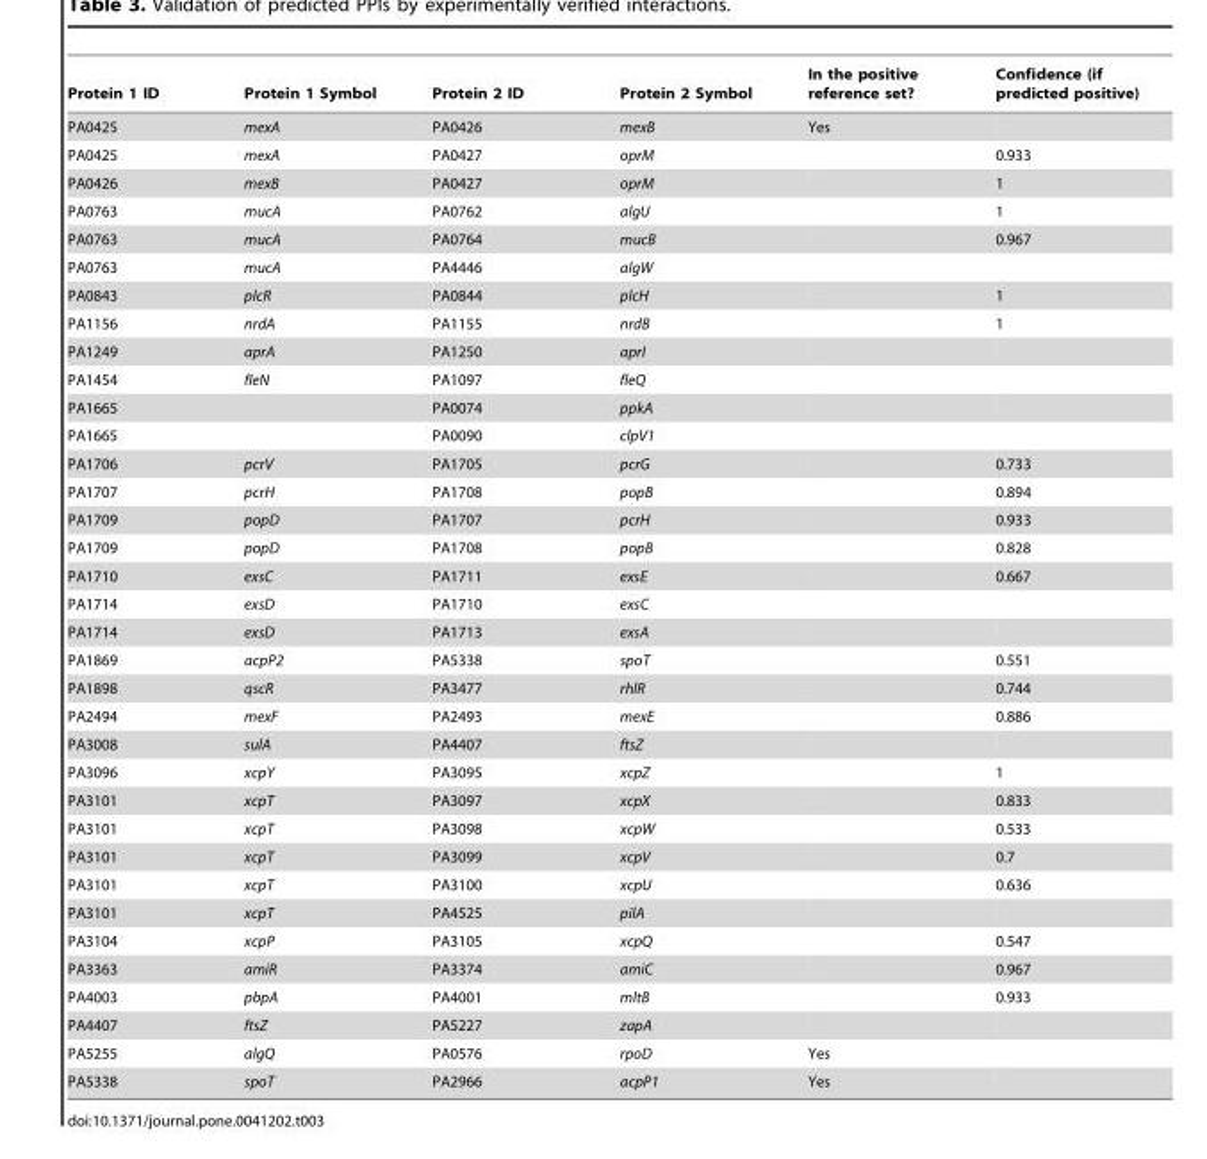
<table><thead><tr><td>Protein 1 ID</td><td>Protein 1 Symbol</td><td>Protein 2 ID</td><td>Protein 2 Symbol</td><td>In the positive reference set?</td><td>Confidence (if predicted positive)</td></tr></thead><tbody><tr><td>PA0425</td><td>mexA</td><td>PA0426</td><td>mexB</td><td>Yes</td><td></td></tr><tr><td>PA0425</td><td>mexA</td><td>PA0427</td><td>oprM</td><td></td><td>0.933</td></tr><tr><td>PA0426</td><td>mexB</td><td>PA0427</td><td>oprM</td><td></td><td>1</td></tr><tr><td>PA0763</td><td>mucA</td><td>PA0762</td><td>algU</td><td></td><td>1</td></tr><tr><td>PA0763</td><td>mucA</td><td>PA0764</td><td>mucB</td><td></td><td>0.967</td></tr><tr><td>PA0763</td><td>mucA</td><td>PA4446</td><td>algW</td><td></td><td></td></tr><tr><td>PA0843</td><td>plcR</td><td>PA0844</td><td>plcH</td><td></td><td>1</td></tr><tr><td>PA1156</td><td>nrdA</td><td>PA1155</td><td>nrdB</td><td></td><td>1</td></tr><tr><td>PA1249</td><td>aprA</td><td>PA1250</td><td>aprI</td><td></td><td></td></tr><tr><td>PA1454</td><td>fleN</td><td>PA1097</td><td>fleQ</td><td></td><td></td></tr><tr><td>PA1665</td><td></td><td>PA0074</td><td>ppkA</td><td></td><td></td></tr><tr><td>PA1665</td><td></td><td>PA0090</td><td>clpV1</td><td></td><td></td></tr><tr><td>PA1706</td><td>pcrV</td><td>PA1705</td><td>pcrG</td><td></td><td>0.733</td></tr><tr><td>PA1707</td><td>pcrH</td><td>PA1708</td><td>popB</td><td></td><td>0.894</td></tr><tr><td>PA1709</td><td>popD</td><td>PA1707</td><td>pcrH</td><td></td><td>0.933</td></tr><tr><td>PA1709</td><td>popD</td><td>PA1708</td><td>popB</td><td></td><td>0.828</td></tr><tr><td>PA1710</td><td>exsC</td><td>PA1711</td><td>exsE</td><td></td><td>0.667</td></tr><tr><td>PA1714</td><td>exsD</td><td>PA1710</td><td>exsC</td><td></td><td></td></tr><tr><td>PA1714</td><td>exsD</td><td>PA1713</td><td>exsA</td><td></td><td></td></tr><tr><td>PA1869</td><td>acpP2</td><td>PA5338</td><td>spoT</td><td></td><td>0.551</td></tr><tr><td>PA1898</td><td>qscR</td><td>PA3477</td><td>rhlR</td><td></td><td>0.744</td></tr><tr><td>PA2494</td><td>mexF</td><td>PA2493</td><td>mexE</td><td></td><td>0.886</td></tr><tr><td>PA3008</td><td>sulA</td><td>PA4407</td><td>ftsZ</td><td></td><td></td></tr><tr><td>PA3096</td><td>xcpY</td><td>PA3095</td><td>xcpZ</td><td></td><td>1</td></tr><tr><td>PA3101</td><td>xcpT</td><td>PA3097</td><td>xcpX</td><td></td><td>0.833</td></tr><tr><td>PA3101</td><td>xcpT</td><td>PA3098</td><td>xcpW</td><td></td><td>0.533</td></tr><tr><td>PA3101</td><td>xcpT</td><td>PA3099</td><td>xcpV</td><td></td><td>0.7</td></tr><tr><td>PA3101</td><td>xcpT</td><td>PA3100</td><td>xcpU</td><td></td><td>0.636</td></tr><tr><td>PA3101</td><td>xcpT</td><td>PA4525</td><td>pilA</td><td></td><td></td></tr><tr><td>PA3104</td><td>xcpP</td><td>PA3105</td><td>xcpQ</td><td></td><td>0.547</td></tr><tr><td>PA3363</td><td>amiR</td><td>PA3374</td><td>amiC</td><td></td><td>0.967</td></tr><tr><td>PA4003</td><td>pbpA</td><td>PA4001</td><td>mltB</td><td></td><td>0.933</td></tr><tr><td>PA4407</td><td>ftsZ</td><td>PA5227</td><td>zapA</td><td></td><td></td></tr><tr><td>PA5255</td><td>algQ</td><td>PA0576</td><td>rpoD</td><td>Yes</td><td></td></tr><tr><td>PA5338</td><td>spoT</td><td>PA2966</td><td>acpP1</td><td>Yes</td><td></td></tr></tbody></table>